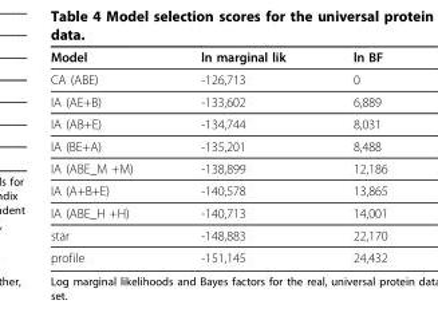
<table><thead><tr><td>Model</td><td>ln marginal lik</td><td>ln BF</td></tr></thead><tbody><tr><td>CA (ABE)</td><td>-126,713</td><td>0</td></tr><tr><td>IA (AE+B)</td><td>-133,602</td><td>6,889</td></tr><tr><td>IA (AB+E)</td><td>-134,744</td><td>8,031</td></tr><tr><td>IA (BE+A)</td><td>-135,201</td><td>8,488</td></tr><tr><td>IA (ABE_M +M)</td><td>-138,899</td><td>12,186</td></tr><tr><td>IA (A+B+E)</td><td>-140,578</td><td>13,865</td></tr><tr><td>IA (ABE_H +H)</td><td>-140,713</td><td>14,001</td></tr><tr><td>star</td><td>-148,883</td><td>22,170</td></tr><tr><td>profile</td><td>-151,145</td><td>24,432</td></tr></tbody></table>